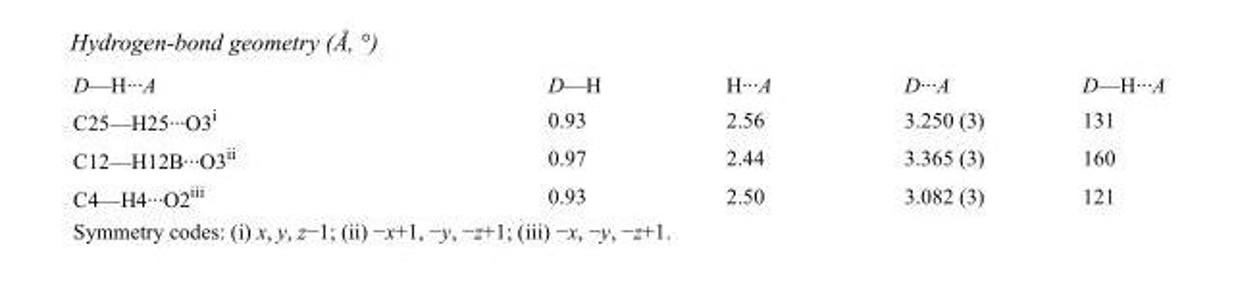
<table><tbody><tr><td>D—H···A</td><td>D—H</td><td>H···A</td><td>D···A</td><td>D—H···A</td></tr><tr><td>C25—H25···O3<sup>i</sup></td><td>0.93</td><td>2.56</td><td>3.250 (3)</td><td>131</td></tr><tr><td>C12—H12B···O3<sup>ii</sup></td><td>0.97</td><td>2.44</td><td>3.365 (3)</td><td>160</td></tr><tr><td>C4—H4···O2<sup>iii</sup></td><td>0.93</td><td>2.50</td><td>3.082 (3)</td><td>121</td></tr></tbody></table>